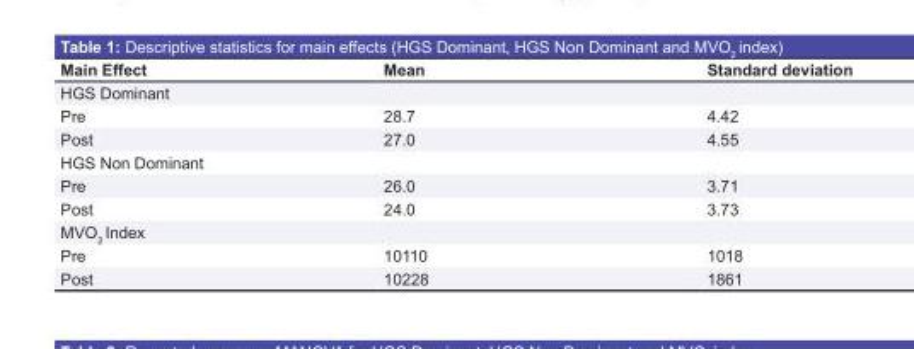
<table><thead><tr><td>Main Effect</td><td>Mean</td><td>Standard deviation</td></tr></thead><tbody><tr><td colspan="3">HGS Dominant</td></tr><tr><td>Pre</td><td>28.7</td><td>4.42</td></tr><tr><td>Post</td><td>27.0</td><td>4.55</td></tr><tr><td colspan="3">HGS Non Dominant</td></tr><tr><td>Pre</td><td>26.0</td><td>3.71</td></tr><tr><td>Post</td><td>24.0</td><td>3.73</td></tr><tr><td colspan="3">MVO<sub>2</sub> Index</td></tr><tr><td>Pre</td><td>10110</td><td>1018</td></tr><tr><td>Post</td><td>10228</td><td>1861</td></tr></tbody></table>